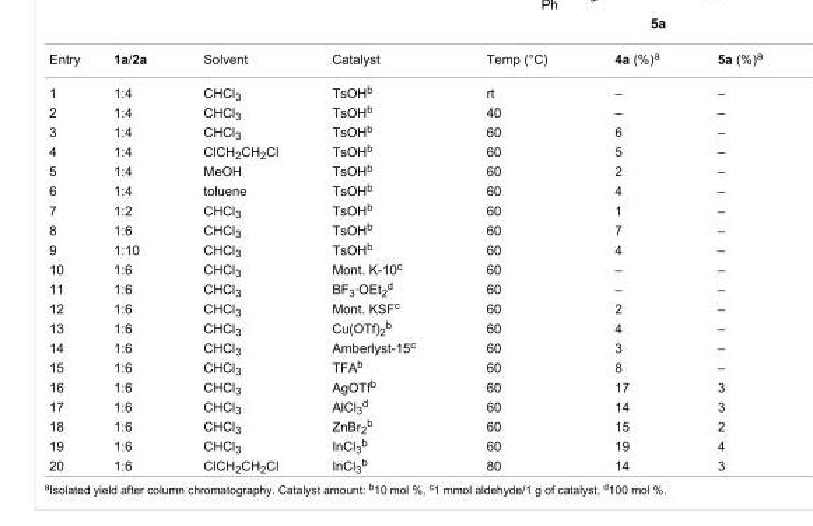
<table><tbody><tr><td>Entry</td><td>1a/2a</td><td>Solvent</td><td>Catalyst</td><td>Temp (°C)</td><td>4a (%)<sup>a</sup></td><td>5a (%)<sup>a</sup></td></tr><tr><td>1</td><td>1:4</td><td>CHCl<sub>3</sub></td><td>TsOH<sup>b</sup></td><td>rt</td><td>–</td><td>–</td></tr><tr><td>2</td><td>1:4</td><td>CHCl<sub>3</sub></td><td>TsOH<sup>b</sup></td><td>40</td><td>–</td><td>–</td></tr><tr><td>3</td><td>1:4</td><td>CHCl<sub>3</sub></td><td>TsOH<sup>b</sup></td><td>60</td><td>6</td><td>–</td></tr><tr><td>4</td><td>1:4</td><td>ClCH<sub>2</sub>CH<sub>2</sub>Cl</td><td>TsOH<sup>b</sup></td><td>60</td><td>5</td><td>–</td></tr><tr><td>5</td><td>1:4</td><td>MeOH</td><td>TsOH<sup>b</sup></td><td>60</td><td>2</td><td>–</td></tr><tr><td>6</td><td>1:4</td><td>toluene</td><td>TsOH<sup>b</sup></td><td>60</td><td>4</td><td>–</td></tr><tr><td>7</td><td>1:2</td><td>CHCl<sub>3</sub></td><td>TsOH<sup>b</sup></td><td>60</td><td>1</td><td>–</td></tr><tr><td>8</td><td>1:6</td><td>CHCl<sub>3</sub></td><td>TsOH<sup>b</sup></td><td>60</td><td>7</td><td>–</td></tr><tr><td>9</td><td>1:10</td><td>CHCl<sub>3</sub></td><td>TsOH<sup>b</sup></td><td>60</td><td>4</td><td>–</td></tr><tr><td>10</td><td>1:6</td><td>CHCl<sub>3</sub></td><td>Mont. K-10<sup>c</sup></td><td>60</td><td>–</td><td>–</td></tr><tr><td>11</td><td>1:6</td><td>CHCl<sub>3</sub></td><td>BF<sub>3</sub>·OEt<sub>2</sub><sup>d</sup></td><td>60</td><td>–</td><td>–</td></tr><tr><td>12</td><td>1:6</td><td>CHCl<sub>3</sub></td><td>Mont. KSF<sup>c</sup></td><td>60</td><td>2</td><td>–</td></tr><tr><td>13</td><td>1:6</td><td>CHCl<sub>3</sub></td><td>Cu(OTf)<sub>2</sub><sup>b</sup></td><td>60</td><td>4</td><td>–</td></tr><tr><td>14</td><td>1:6</td><td>CHCl<sub>3</sub></td><td>Amberlyst-15<sup>c</sup></td><td>60</td><td>3</td><td>–</td></tr><tr><td>15</td><td>1:6</td><td>CHCl<sub>3</sub></td><td>TFA<sup>b</sup></td><td>60</td><td>8</td><td>–</td></tr><tr><td>16</td><td>1:6</td><td>CHCl<sub>3</sub></td><td>AgOTf<sup>b</sup></td><td>60</td><td>17</td><td>3</td></tr><tr><td>17</td><td>1:6</td><td>CHCl<sub>3</sub></td><td>AlCl<sub>3</sub><sup>d</sup></td><td>60</td><td>14</td><td>3</td></tr><tr><td>18</td><td>1:6</td><td>CHCl<sub>3</sub></td><td>ZnBr<sub>2</sub><sup>b</sup></td><td>60</td><td>15</td><td>2</td></tr><tr><td>19</td><td>1:6</td><td>CHCl<sub>3</sub></td><td>InCl<sub>3</sub><sup>b</sup></td><td>60</td><td>19</td><td>4</td></tr><tr><td>20</td><td>1:6</td><td>ClCH<sub>2</sub>CH<sub>2</sub>Cl</td><td>InCl<sub>3</sub><sup>b</sup></td><td>80</td><td>14</td><td>3</td></tr></tbody></table>